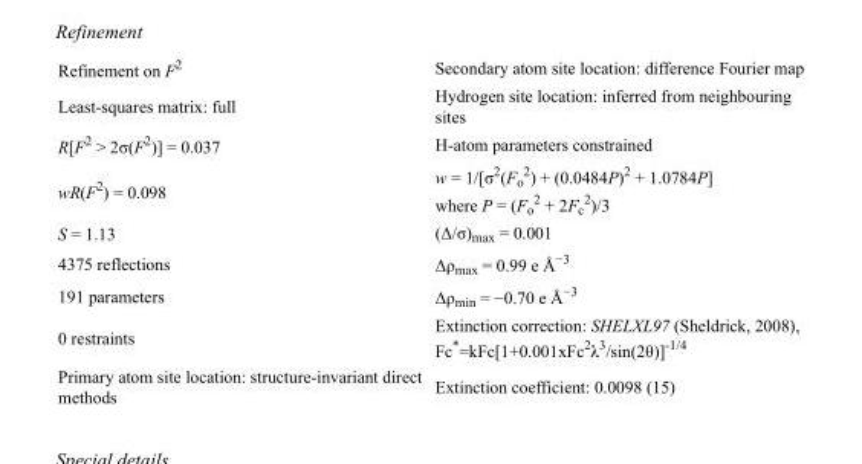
<table><tbody><tr><td>Refinement on F<sup>2</sup></td><td>Secondary atom site location: difference Fourier map</td></tr><tr><td>Least-squares matrix: full</td><td>Hydrogen site location: inferred from neighbouring sites</td></tr><tr><td>R[F<sup>2</sup> &gt; 2σ(F<sup>2</sup>)] = 0.037</td><td>H-atom parameters constrained</td></tr><tr><td>wR(F<sup>2</sup>) = 0.098</td><td>w = 1/[σ<sup>2</sup>(F<sub>o</sub> <sup>2</sup>) + (0.0484P)<sup>2</sup> + 1.0784P] where P = (F<sub>o</sub> <sup>2</sup> + 2F<sub>c</sub> <sup>2</sup>)/3</td></tr><tr><td>S = 1.13</td><td>(Δ/σ)<sub>max</sub> = 0.001</td></tr><tr><td>4375 reflections</td><td>Δρ<sub>max</sub> = 0.99 e Å<sup>−3</sup></td></tr><tr><td>191 parameters</td><td>Δρmin = −0.70 e Å−3</td></tr><tr><td>0 restraints</td><td>Extinction correction: SHELXL97 (Sheldrick, 2008), Fc*=kFc[1+0.001xFc<sup>2</sup>λ<sup>3</sup>/sin(2θ)]<sup>-1/4</sup></td></tr><tr><td>Primary atom site location: structure-invariant direct methods</td><td>Extinction coefficient: 0.0098 (15)</td></tr></tbody></table>